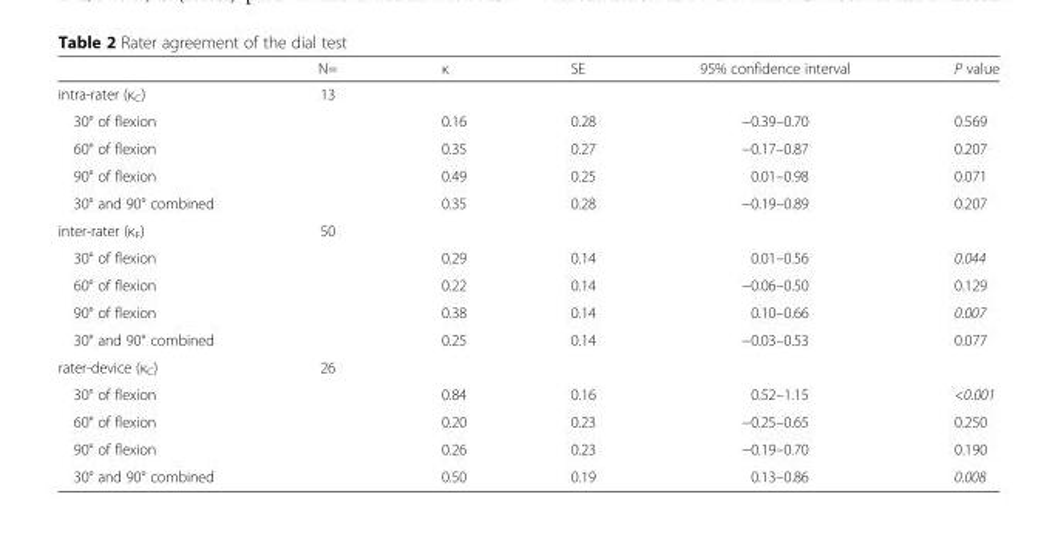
<table><thead><tr><td></td><td>N=</td><td>κ</td><td>SE</td><td>95% confidence interval</td><td>P value</td></tr></thead><tbody><tr><td>intra-rater (κ<sub>C</sub>)</td><td>13</td><td></td><td></td><td></td><td></td></tr><tr><td>30° of flexion</td><td></td><td>0.16</td><td>0.28</td><td>−0.39–0.70</td><td>0.569</td></tr><tr><td>60° of flexion</td><td></td><td>0.35</td><td>0.27</td><td>−0.17–0.87</td><td>0.207</td></tr><tr><td>90° of flexion</td><td></td><td>0.49</td><td>0.25</td><td>0.01–0.98</td><td>0.071</td></tr><tr><td>30° and 90° combined</td><td></td><td>0.35</td><td>0.28</td><td>−0.19–0.89</td><td>0.207</td></tr><tr><td>inter-rater (κ<sub>F</sub>)</td><td>50</td><td></td><td></td><td></td><td></td></tr><tr><td>30° of flexion</td><td></td><td>0.29</td><td>0.14</td><td>0.01–0.56</td><td>0.044</td></tr><tr><td>60° of flexion</td><td></td><td>0.22</td><td>0.14</td><td>−0.06–0.50</td><td>0.129</td></tr><tr><td>90° of flexion</td><td></td><td>0.38</td><td>0.14</td><td>0.10–0.66</td><td>0.007</td></tr><tr><td>30° and 90° combined</td><td></td><td>0.25</td><td>0.14</td><td>−0.03–0.53</td><td>0.077</td></tr><tr><td>rater-device (κ<sub>C</sub>)</td><td>26</td><td></td><td></td><td></td><td></td></tr><tr><td>30° of flexion</td><td></td><td>0.84</td><td>0.16</td><td>0.52–1.15</td><td>&lt;0.001</td></tr><tr><td>60° of flexion</td><td></td><td>0.20</td><td>0.23</td><td>−0.25–0.65</td><td>0.250</td></tr><tr><td>90° of flexion</td><td></td><td>0.26</td><td>0.23</td><td>−0.19–0.70</td><td>0.190</td></tr><tr><td>30° and 90° combined</td><td></td><td>0.50</td><td>0.19</td><td>0.13–0.86</td><td>0.008</td></tr></tbody></table>